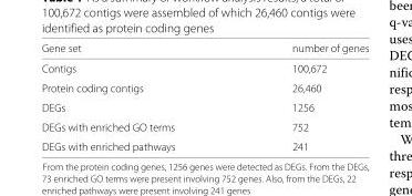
<table><thead><tr><td>Gene set</td><td>number of genes</td></tr></thead><tbody><tr><td>Contigs</td><td>100,672</td></tr><tr><td>Protein coding contigs</td><td>26,460</td></tr><tr><td>DEGs</td><td>1256</td></tr><tr><td>DEGs with enriched GO terms</td><td>752</td></tr><tr><td>DEGs with enriched pathways</td><td>241</td></tr></tbody></table>